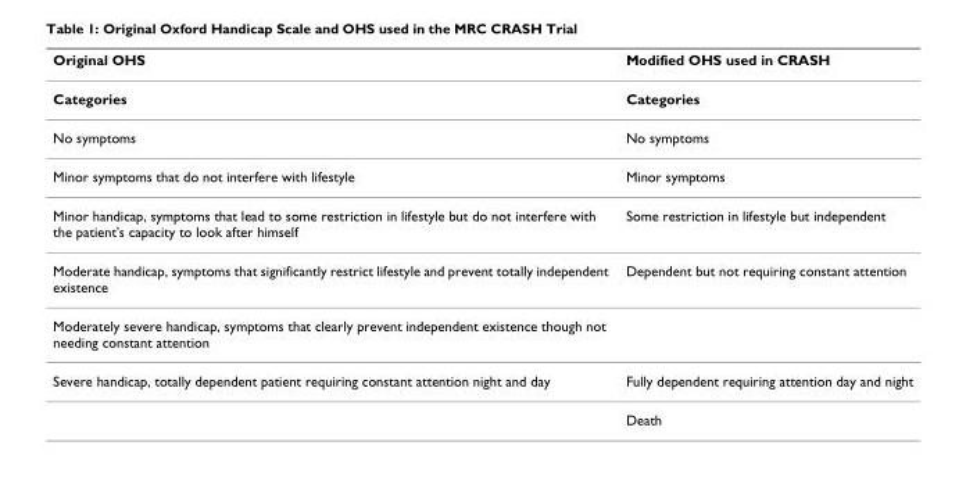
<table><thead><tr><td>Original OHS</td><td>Modified OHS used in CRASH</td></tr></thead><tbody><tr><td>Categories</td><td>Categories</td></tr><tr><td>No symptoms</td><td>No symptoms</td></tr><tr><td>Minor symptoms that do not interfere with lifestyle</td><td>Minor symptoms</td></tr><tr><td>Minor handicap, symptoms that lead to some restriction in lifestyle but do not interfere with the patient&#x27;s capacity to look after himself</td><td>Some restriction in lifestyle but independent</td></tr><tr><td>Moderate handicap, symptoms that significantly restrict lifestyle and prevent totally independent existence</td><td>Dependent but not requiring constant attention</td></tr><tr><td colspan="2">Moderately severe handicap, symptoms that clearly prevent independent existence though not needing constant attention</td></tr><tr><td rowspan="2">Severe handicap, totally dependent patient requiring constant attention night and day</td><td>Fully dependent requiring attention day and night</td></tr><tr><td>Death</td></tr></tbody></table>